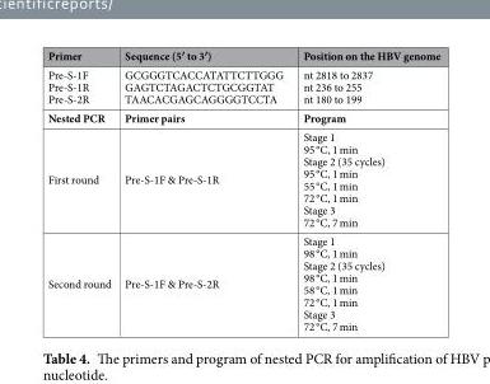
<table><thead><tr><td>Primer</td><td>Sequence (5′ to 3′)</td><td>Position on the HBV genome</td></tr></thead><tbody><tr><td>Pre-S-1F Pre-S-1R Pre-S-2R</td><td>GCGGGTCACCATATTCTTGGG GAGTCTAGACTCTGCGGTAT TAACACGAGCAGGGGTCCTA</td><td>nt 2818 to 2837 nt 236 to 255 nt 180 to 199</td></tr><tr><td>Nested PCR</td><td>Primer pairs</td><td>Program</td></tr><tr><td>First round</td><td>Pre-S-1F &amp; Pre-S-1R</td><td>Stage 1 95 °C, 1 min Stage 2 (35 cycles) 95 °C, 1 min 55 °C, 1 min 72 °C, 1 min Stage 3 72 °C, 7 min</td></tr><tr><td>Second round</td><td>Pre-S-1F &amp; Pre-S-2R</td><td>Stage 1 98 °C, 1 min Stage 2 (35 cycles) 98 °C, 1 min 58 °C, 1 min 72 °C, 1 min Stage 3 72 °C, 7 min</td></tr></tbody></table>